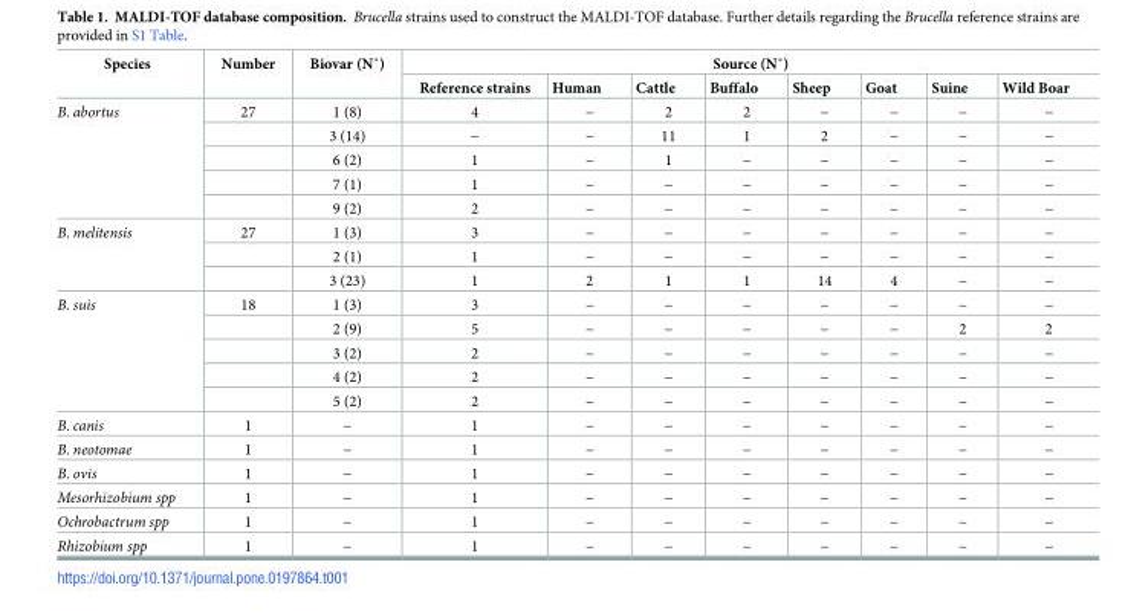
<table><thead><tr><td rowspan="2">Species</td><td rowspan="2">Number</td><td rowspan="2">Biovar (N˚)</td><td colspan="8">Source (N˚)</td></tr><tr><td>Reference strains</td><td>Human</td><td>Cattle</td><td>Buffalo</td><td>Sheep</td><td>Goat</td><td>Suine</td><td>Wild Boar</td></tr></thead><tbody><tr><td rowspan="5">B. abortus</td><td>27</td><td>1 (8)</td><td>4</td><td>−</td><td>2</td><td>2</td><td>−</td><td>−</td><td>−</td><td>−</td></tr><tr><td></td><td>3 (14)</td><td>−</td><td>−</td><td>11</td><td>1</td><td>2</td><td>−</td><td>−</td><td>−</td></tr><tr><td></td><td>6 (2)</td><td>1</td><td>−</td><td>1</td><td>−</td><td>−</td><td>−</td><td>−</td><td>−</td></tr><tr><td></td><td>7 (1)</td><td>1</td><td>−</td><td>−</td><td>−</td><td>−</td><td>−</td><td>−</td><td>−</td></tr><tr><td></td><td>9 (2)</td><td>2</td><td>−</td><td>−</td><td>−</td><td>−</td><td>−</td><td>−</td><td>−</td></tr><tr><td rowspan="3">B. melitensis</td><td>27</td><td>1 (3)</td><td>3</td><td>−</td><td>−</td><td>−</td><td>−</td><td>−</td><td>−</td><td>−</td></tr><tr><td></td><td>2 (1)</td><td>1</td><td>−</td><td>−</td><td>−</td><td>−</td><td>−</td><td>−</td><td>−</td></tr><tr><td></td><td>3 (23)</td><td>1</td><td>2</td><td>1</td><td>1</td><td>14</td><td>4</td><td>−</td><td>−</td></tr><tr><td rowspan="5">B. suis</td><td>18</td><td>1 (3)</td><td>3</td><td>−</td><td>−</td><td>−</td><td>−</td><td>−</td><td>−</td><td>−</td></tr><tr><td></td><td>2 (9)</td><td>5</td><td>−</td><td>−</td><td>−</td><td>−</td><td>−</td><td>2</td><td>2</td></tr><tr><td></td><td>3 (2)</td><td>2</td><td>−</td><td>−</td><td>−</td><td>−</td><td>−</td><td>−</td><td>−</td></tr><tr><td></td><td>4 (2)</td><td>2</td><td>−</td><td>−</td><td>−</td><td>−</td><td>−</td><td>−</td><td>−</td></tr><tr><td></td><td>5 (2)</td><td>2</td><td>−</td><td>−</td><td>−</td><td>−</td><td>−</td><td>−</td><td>−</td></tr><tr><td>B. canis</td><td>1</td><td>−</td><td>1</td><td>−</td><td>−</td><td>−</td><td>−</td><td>−</td><td>−</td><td>−</td></tr><tr><td>B. neotomae</td><td>1</td><td>−</td><td>1</td><td>−</td><td>−</td><td>−</td><td>−</td><td>−</td><td>−</td><td>−</td></tr><tr><td>B. ovis</td><td>1</td><td>−</td><td>1</td><td>−</td><td>−</td><td>−</td><td>−</td><td>−</td><td>−</td><td>−</td></tr><tr><td>Mesorhizobium spp</td><td>1</td><td>−</td><td>1</td><td>−</td><td>−</td><td>−</td><td>−</td><td>−</td><td>−</td><td>−</td></tr><tr><td>Ochrobactrum spp</td><td>1</td><td>−</td><td>1</td><td>−</td><td>−</td><td>−</td><td>−</td><td>−</td><td>−</td><td>−</td></tr><tr><td>Rhizobium spp</td><td>1</td><td>−</td><td>1</td><td>−</td><td>−</td><td>−</td><td>−</td><td>−</td><td>−</td><td>−</td></tr></tbody></table>